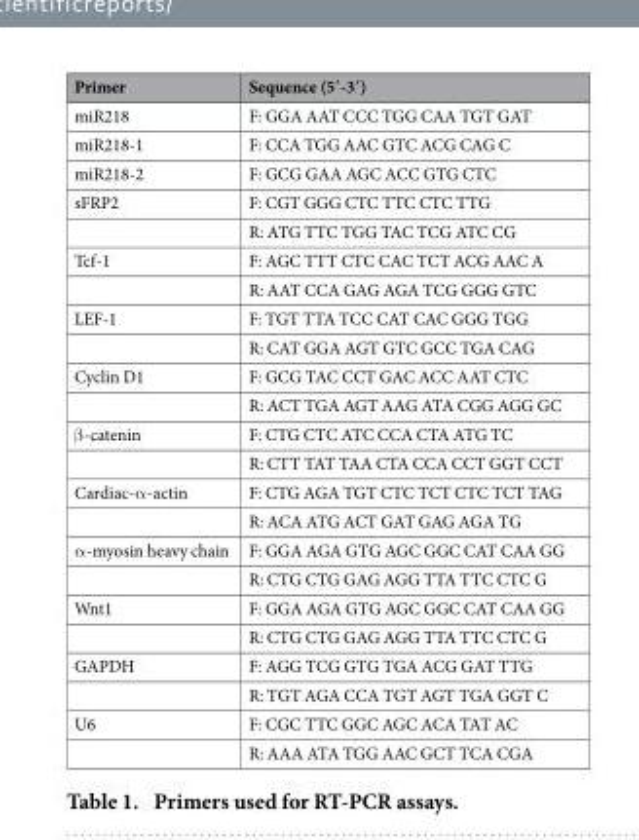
<table><thead><tr><td>Primer</td><td>Sequence (5′-3′)</td></tr></thead><tbody><tr><td>miR218</td><td>F: GGA AAT CCC TGG CAA TGT GAT</td></tr><tr><td>miR218-1</td><td>F: CCA TGG AAC GTC ACG CAG C</td></tr><tr><td>miR218-2</td><td>F: GCG GAA AGC ACC GTG CTC</td></tr><tr><td rowspan="2">sFRP2</td><td>F: CGT GGG CTC TTC CTC TTG</td></tr><tr><td>R: ATG TTC TGG TAC TCG ATC CG</td></tr><tr><td rowspan="2">Tcf-1</td><td>F: AGC TTT CTC CAC TCT ACG AAC A</td></tr><tr><td>R: AAT CCA GAG AGA TCG GGG GTC</td></tr><tr><td rowspan="2">LEF-1</td><td>F: TGT TTA TCC CAT CAC GGG TGG</td></tr><tr><td>R: CAT GGA AGT GTC GCC TGA CAG</td></tr><tr><td rowspan="2">Cyclin D1</td><td>F: GCG TAC CCT GAC ACC AAT CTC</td></tr><tr><td>R: ACT TGA AGT AAG ATA CGG AGG GC</td></tr><tr><td rowspan="2">β -catenin</td><td>F: CTG CTC ATC CCA CTA ATG TC</td></tr><tr><td>R: CTT TAT TAA CTA CCA CCT GGT CCT</td></tr><tr><td rowspan="2">Cardiac-α -actin</td><td>F: CTG AGA TGT CTC TCT CTC TCT TAG</td></tr><tr><td>R: ACA ATG ACT GAT GAG AGA TG</td></tr><tr><td rowspan="2">α -myosin heavy chain</td><td>F: GGA AGA GTG AGC GGC CAT CAA GG</td></tr><tr><td>R: CTG CTG GAG AGG TTA TTC CTC G</td></tr><tr><td rowspan="2">Wnt1</td><td>F: GGA AGA GTG AGC GGC CAT CAA GG</td></tr><tr><td>R: CTG CTG GAG AGG TTA TTC CTC G</td></tr><tr><td rowspan="2">GAPDH</td><td>F: AGG TCG GTG TGA ACG GAT TTG</td></tr><tr><td>R: TGT AGA CCA TGT AGT TGA GGT C</td></tr><tr><td rowspan="2">U6</td><td>F: CGC TTC GGC AGC ACA TAT AC</td></tr><tr><td>R: AAA ATA TGG AAC GCT TCA CGA</td></tr></tbody></table>